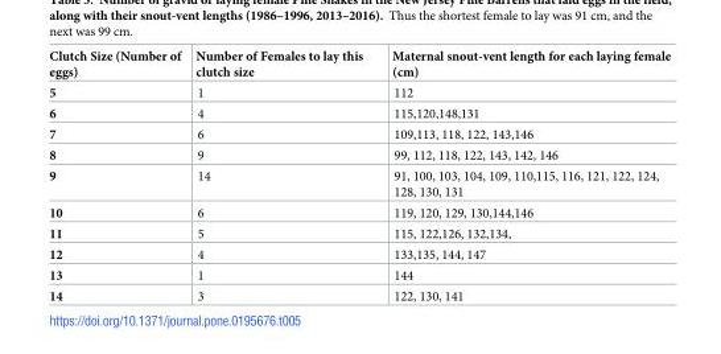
<table><thead><tr><td>Clutch Size (Number of eggs)</td><td>Number of Females to lay this clutch size</td><td>Maternal snout-vent length for each laying female (cm)</td></tr></thead><tbody><tr><td>5</td><td>1</td><td>112</td></tr><tr><td>6</td><td>4</td><td>115,120,148,131</td></tr><tr><td>7</td><td>6</td><td>109,113, 118, 122, 143,146</td></tr><tr><td>8</td><td>9</td><td>99, 112, 118, 122, 143, 142, 146</td></tr><tr><td>9</td><td>14</td><td>91, 100, 103, 104, 109, 110,115, 116, 121, 122, 124, 128, 130, 131</td></tr><tr><td>10</td><td>6</td><td>119, 120, 129, 130,144,146</td></tr><tr><td>11</td><td>5</td><td>115, 122,126, 132,134,</td></tr><tr><td>12</td><td>4</td><td>133,135, 144, 147</td></tr><tr><td>13</td><td>1</td><td>144</td></tr><tr><td>14</td><td>3</td><td>122, 130, 141</td></tr></tbody></table>